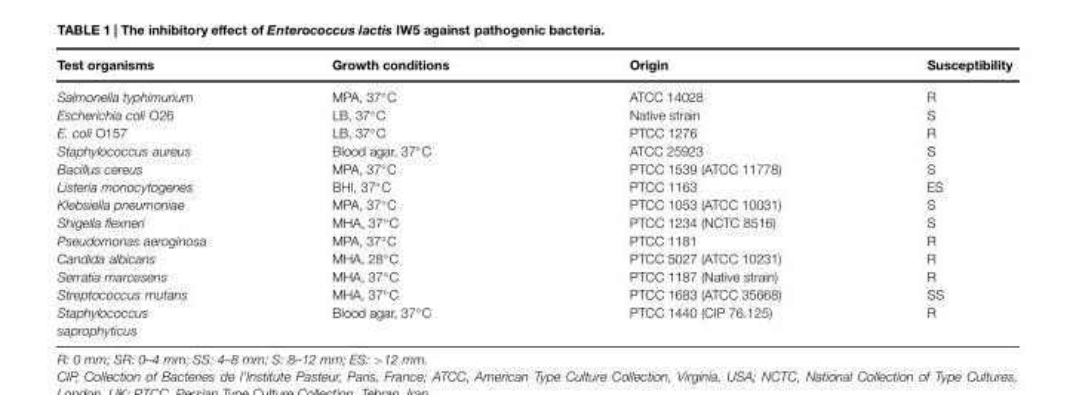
<table><thead><tr><td>Test organisms</td><td>Growth conditions</td><td>Origin</td><td>Susceptibility</td></tr></thead><tbody><tr><td>Salmonella typhimurium Escherichia coli O26 E. coli O157 Staphylococcus aureus Bacillus cereus Listeria monocytogenes Klebsiella pneumoniae Shigella flexneri Pseudomonas aeroginosa Candida albicans Serratia marcesens Streptococcus mutans Staphylococcus saprophyticus</td><td>MPA, 37◦C LB, 37◦C LB, 37◦C Blood agar, 37◦C MPA, 37◦C BHI, 37◦C MPA, 37◦C MHA, 37◦C MPA, 37◦C MHA, 28◦C MHA, 37◦C MHA, 37◦C Blood agar, 37◦C</td><td>ATCC 14028 Native strain PTCC 1276 ATCC 25923 PTCC 1539 (ATCC 11778) PTCC 1163 PTCC 1053 (ATCC 10031) PTCC 1234 (NCTC 8516) PTCC 1181 PTCC 5027 (ATCC 10231) PTCC 1187 (Native strain) PTCC 1683 (ATCC 35668) PTCC 1440 (CIP 76.125)</td><td>R S R S S ES S S R R R SS R</td></tr></tbody></table>